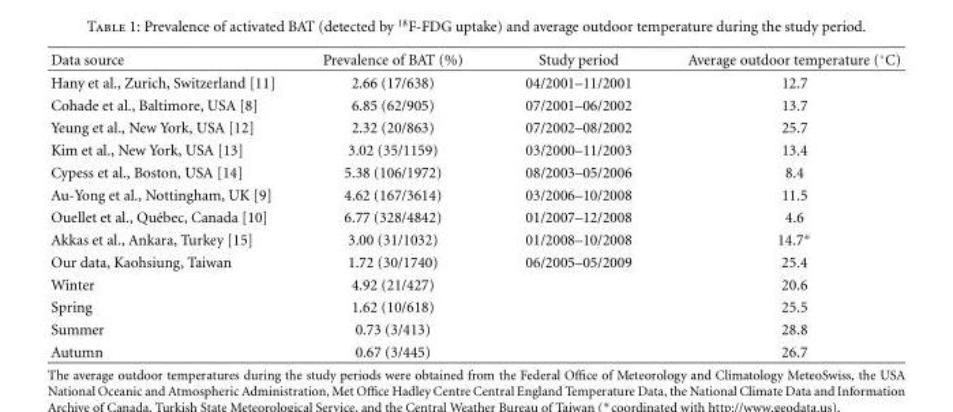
<table><thead><tr><td>Data source</td><td>Prevalence of BAT (%)</td><td>Study period</td><td>Average outdoor temperature (◦C)</td></tr></thead><tbody><tr><td>Hany et al., Zurich, Switzerland [11]</td><td>2.66 (17/638)</td><td>04/2001–11/2001</td><td>12.7</td></tr><tr><td>Cohade et al., Baltimore, USA [8]</td><td>6.85 (62/905)</td><td>07/2001–06/2002</td><td>13.7</td></tr><tr><td>Yeung et al., New York, USA [12]</td><td>2.32 (20/863)</td><td>07/2002–08/2002</td><td>25.7</td></tr><tr><td>Kim et al., New York, USA [13]</td><td>3.02 (35/1159)</td><td>03/2000–11/2003</td><td>13.4</td></tr><tr><td>Cypess et al., Boston, USA [14]</td><td>5.38 (106/1972)</td><td>08/2003–05/2006</td><td>8.4</td></tr><tr><td>Au-Yong et al., Nottingham, UK [9]</td><td>4.62 (167/3614)</td><td>03/2006–10/2008</td><td>11.5</td></tr><tr><td>Ouellet et al., Qu´ebec, Canada [10]</td><td>6.77 (328/4842)</td><td>01/2007–12/2008</td><td>4.6</td></tr><tr><td>Akkas et al., Ankara, Turkey [15]</td><td>3.00 (31/1032)</td><td>01/2008–10/2008</td><td>14.7∗</td></tr><tr><td>Our data, Kaohsiung, Taiwan</td><td>1.72 (30/1740)</td><td>06/2005–05/2009</td><td>25.4</td></tr><tr><td>Winter</td><td>4.92 (21/427)</td><td></td><td>20.6</td></tr><tr><td>Spring</td><td>1.62 (10/618)</td><td></td><td>25.5</td></tr><tr><td>Summer</td><td>0.73 (3/413)</td><td></td><td>28.8</td></tr><tr><td>Autumn</td><td>0.67 (3/445)</td><td></td><td>26.7</td></tr></tbody></table>